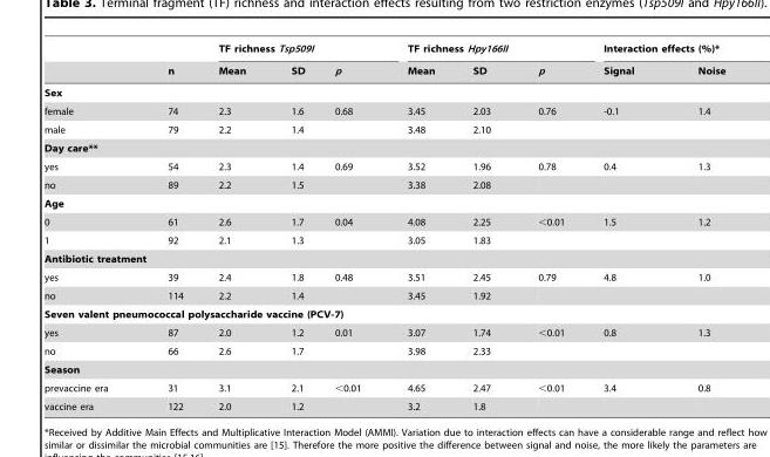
<table><thead><tr><td rowspan="2"></td><td rowspan="2">n</td><td colspan="3">TF richness Tsp509I</td><td colspan="3">TF richness Hpy166II</td><td colspan="2">Interaction effects (%)*</td></tr><tr><td>Mean</td><td>SD</td><td>p</td><td>Mean</td><td>SD</td><td>p</td><td>Signal</td><td>Noise</td></tr></thead><tbody><tr><td colspan="10">Sex</td></tr><tr><td>female</td><td>74</td><td>2.3</td><td>1.6</td><td>0.68</td><td>3.45</td><td>2.03</td><td>0.76</td><td>-0.1</td><td>1.4</td></tr><tr><td>male</td><td>79</td><td>2.2</td><td>1.4</td><td></td><td>3.48</td><td>2.10</td><td></td><td></td><td></td></tr><tr><td colspan="10">Day care**</td></tr><tr><td>yes</td><td>54</td><td>2.3</td><td>1.4</td><td>0.69</td><td>3.52</td><td>1.96</td><td>0.78</td><td>0.4</td><td>1.3</td></tr><tr><td>no</td><td>89</td><td>2.2</td><td>1.5</td><td></td><td>3.38</td><td>2.08</td><td></td><td></td><td></td></tr><tr><td colspan="10">Age</td></tr><tr><td>0</td><td>61</td><td>2.6</td><td>1.7</td><td>0.04</td><td>4.08</td><td>2.25</td><td>&lt;0.01</td><td>1.5</td><td>1.2</td></tr><tr><td>1</td><td>92</td><td>2.1</td><td>1.3</td><td></td><td>3.05</td><td>1.83</td><td></td><td></td><td></td></tr><tr><td colspan="10">Antibiotic treatment</td></tr><tr><td>yes</td><td>39</td><td>2.4</td><td>1.8</td><td>0.48</td><td>3.51</td><td>2.45</td><td>0.79</td><td>4.8</td><td>1.0</td></tr><tr><td>no</td><td>114</td><td>2.2</td><td>1.4</td><td></td><td>3.45</td><td>1.92</td><td></td><td></td><td></td></tr><tr><td colspan="10">Seven valent pneumococcal polysaccharide vaccine (PCV-7)</td></tr><tr><td>yes</td><td>87</td><td>2.0</td><td>1.2</td><td>0.01</td><td>3.07</td><td>1.74</td><td>&lt;0.01</td><td>0.8</td><td>1.3</td></tr><tr><td>no</td><td>66</td><td>2.6</td><td>1.7</td><td></td><td>3.98</td><td>2.33</td><td></td><td></td><td></td></tr><tr><td colspan="10">Season</td></tr><tr><td>prevaccine era</td><td>31</td><td>3.1</td><td>2.1</td><td>&lt;0.01</td><td>4.65</td><td>2.47</td><td>&lt;0.01</td><td>3.4</td><td>0.8</td></tr><tr><td>vaccine era</td><td>122</td><td>2.0</td><td>1.2</td><td></td><td>3.2</td><td>1.8</td><td></td><td></td><td></td></tr></tbody></table>